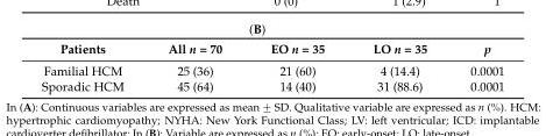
<table><thead><tr><td>Patients</td><td>All n = 70</td><td>EO n = 35</td><td>LO n = 35</td><td>p</td></tr></thead><tbody><tr><td>Familial HCM</td><td>25 (36)</td><td>21 (60)</td><td>4 (14.4)</td><td>0.0001</td></tr><tr><td>Sporadic HCM</td><td>45 (64)</td><td>14 (40)</td><td>31 (88.6)</td><td>0.0001</td></tr></tbody></table>